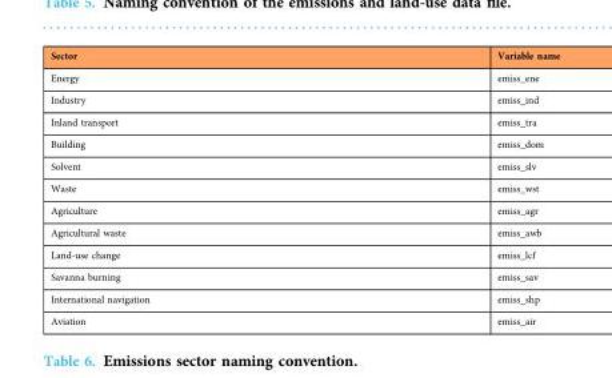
<table><thead><tr><td>Sector</td><td>Variable name</td></tr></thead><tbody><tr><td>Energy</td><td>emiss_ene</td></tr><tr><td>Industry</td><td>emiss_ind</td></tr><tr><td>Inland transport</td><td>emiss_tra</td></tr><tr><td>Building</td><td>emiss_dom</td></tr><tr><td>Solvent</td><td>emiss_slv</td></tr><tr><td>Waste</td><td>emiss_wst</td></tr><tr><td>Agriculture</td><td>emiss_agr</td></tr><tr><td>Agricultural waste</td><td>emiss_awb</td></tr><tr><td>Land-use change</td><td>emiss_lcf</td></tr><tr><td>Savanna burning</td><td>emiss_sav</td></tr><tr><td>International navigation</td><td>emiss_shp</td></tr><tr><td>Aviation</td><td>emiss_air</td></tr></tbody></table>